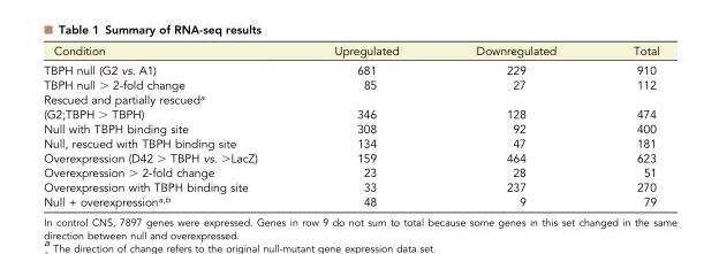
<table><thead><tr><td>Condition</td><td>Upregulated</td><td>Downregulated</td><td>Total</td></tr></thead><tbody><tr><td>TBPH null (G2 vs. A1)</td><td>681</td><td>229</td><td>910</td></tr><tr><td>TBPH null &gt; 2-fold change</td><td>85</td><td>27</td><td>112</td></tr><tr><td colspan="4">Rescued and partially rescued<sup>a</sup></td></tr><tr><td>(G2;TBPH &gt; TBPH)</td><td>346</td><td>128</td><td>474</td></tr><tr><td>Null with TBPH binding site</td><td>308</td><td>92</td><td>400</td></tr><tr><td>Null, rescued with TBPH binding site</td><td>134</td><td>47</td><td>181</td></tr><tr><td>Overexpression (D42 &gt; TBPH vs. &gt;LacZ)</td><td>159</td><td>464</td><td>623</td></tr><tr><td>Overexpression &gt; 2-fold change</td><td>23</td><td>28</td><td>51</td></tr><tr><td>Overexpression with TBPH binding site</td><td>33</td><td>237</td><td>270</td></tr><tr><td>Null + overexpression<sup>a,b</sup></td><td>48</td><td>9</td><td>79</td></tr></tbody></table>